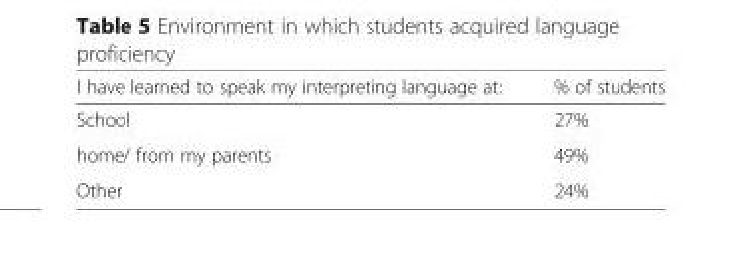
<table><thead><tr><td>I have learned to speak my interpreting language at:</td><td>% of students</td></tr></thead><tbody><tr><td>School</td><td>27%</td></tr><tr><td>home/ from my parents</td><td>49%</td></tr><tr><td>Other</td><td>24%</td></tr></tbody></table>